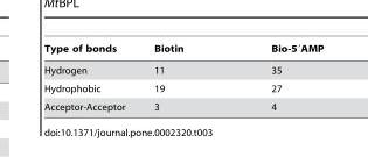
<table><thead><tr><td>Type of bonds</td><td>Biotin</td><td>Bio-5′AMP</td></tr></thead><tbody><tr><td>Hydrogen</td><td>11</td><td>35</td></tr><tr><td>Hydrophobic</td><td>19</td><td>27</td></tr><tr><td>Acceptor-Acceptor</td><td>3</td><td>4</td></tr></tbody></table>